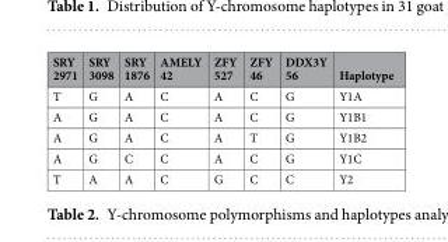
<table><thead><tr><td>SRY 2971</td><td>SRY 3098</td><td>SRY 1876</td><td>AMELY 42</td><td>ZFY 527</td><td>ZFY 46</td><td>DDX3Y 56</td><td>Haplotype</td></tr></thead><tbody><tr><td>T</td><td>G</td><td>A</td><td>C</td><td>A</td><td>C</td><td>G</td><td>Y1A</td></tr><tr><td>A</td><td>G</td><td>A</td><td>C</td><td>A</td><td>C</td><td>G</td><td>Y1B1</td></tr><tr><td>A</td><td>G</td><td>A</td><td>C</td><td>A</td><td>T</td><td>G</td><td>Y1B2</td></tr><tr><td>A</td><td>G</td><td>C</td><td>C</td><td>A</td><td>C</td><td>G</td><td>Y1C</td></tr><tr><td>T</td><td>A</td><td>A</td><td>C</td><td>G</td><td>C</td><td>C</td><td>Y2</td></tr></tbody></table>